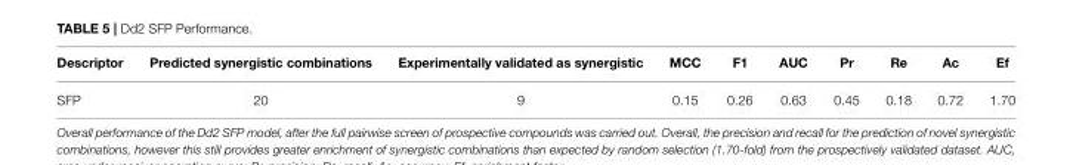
<table><thead><tr><td>Descriptor</td><td>Predicted synergistic combinations</td><td>Experimentally validated as synergistic</td><td>MCC</td><td>F1</td><td>AUC</td><td>Pr</td><td>Re</td><td>Ac</td><td>Ef</td></tr></thead><tbody><tr><td>SFP</td><td>20</td><td>9</td><td>0.15</td><td>0.26</td><td>0.63</td><td>0.45</td><td>0.18</td><td>0.72</td><td>1.70</td></tr></tbody></table>